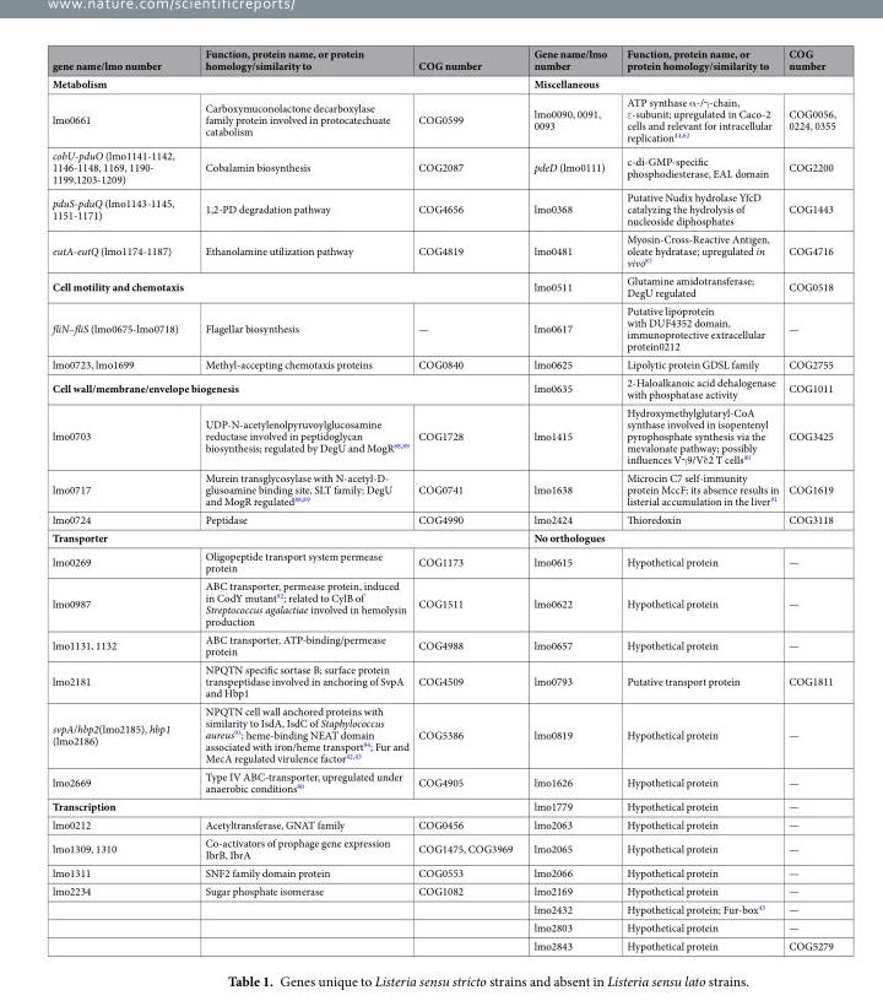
<table><thead><tr><td>gene name/lmo number</td><td>Function, protein name, or protein homology/similarity to</td><td>COG number</td><td>Gene name/lmo number</td><td>Function, protein name, or protein homology/similarity to</td><td>COG number</td></tr></thead><tbody><tr><td colspan="3">Metabolism</td><td colspan="3">Miscellaneous</td></tr><tr><td>lmo0661</td><td>Carboxymuconolactone decarboxylase family protein involved in protocatechuate catabolism</td><td>COG0599</td><td>lmo0090, 0091, 0093</td><td>ATP synthase α-/γ-chain, ε-subunit; upregulated in Caco-2 cells and relevant for intracellular replication<sup>44,62</sup></td><td>COG0056, 0224, 0355</td></tr><tr><td>cobU-pduO (lmo1141-1142, 1146-1148, 1169, 1190- 1199,1203-1209)</td><td>Cobalamin biosynthesis</td><td>COG2087</td><td>pdeD (lmo0111)</td><td>c-di-GMP-specific phosphodiesterase, EAL domain</td><td>COG2200</td></tr><tr><td>pduS-pduQ (lmo1143-1145, 1151-1171)</td><td>1,2-PD degradation pathway</td><td>COG4656</td><td>lmo0368</td><td>Putative Nudix hydrolase YfcD catalyzing the hydrolysis of nucleoside diphosphates</td><td>COG1443</td></tr><tr><td>eutA-eutQ (lmo1174-1187)</td><td>Ethanolamine utilization pathway</td><td>COG4819</td><td>lmo0481</td><td>Myosin-Cross-Reactive Antigen, oleate hydratase; upregulated in vivo<sup>87</sup></td><td>COG4716</td></tr><tr><td colspan="3">Cell motility and chemotaxis</td><td>lmo0511</td><td>Glutamine amidotransferase; DegU regulated</td><td>COG0518</td></tr><tr><td>fliN–fliS (lmo0675-lmo0718)</td><td>Flagellar biosynthesis</td><td>—</td><td>lmo0617</td><td>Putative lipoprotein with DUF4352 domain, immunoprotective extracellular protein0212</td><td>—</td></tr><tr><td>lmo0723, lmo1699</td><td>Methyl-accepting chemotaxis proteins</td><td>COG0840</td><td>lmo0625</td><td>Lipolytic protein GDSL family</td><td>COG2755</td></tr><tr><td colspan="3">Cell wall/membrane/envelope biogenesis</td><td>lmo0635</td><td>2-Haloalkanoic acid dehalogenase with phosphatase activity</td><td>COG1011</td></tr><tr><td>lmo0703</td><td>UDP-N-acetylenolpyruvoylglucosamine reductase involved in peptidoglycan biosynthesis; regulated by DegU and MogR<sup>88,89</sup></td><td>COG1728</td><td>lmo1415</td><td>Hydroxymethylglutaryl-CoA synthase involved in isopentenyl pyrophosphate synthesis via the mevalonate pathway; possibly influences Vγ9/Vδ2 T cells<sup>90</sup></td><td>COG3425</td></tr><tr><td>lmo0717</td><td>Murein transglycosylase with N-acetyl-D- glusoamine binding site, SLT family; DegU and MogR regulated<sup>88,89</sup></td><td>COG0741</td><td>lmo1638</td><td>Microcin C7 self-immunity protein MccF; its absence results in listerial accumulation in the liver<sup>91</sup></td><td>COG1619</td></tr><tr><td>lmo0724</td><td>Peptidase</td><td>COG4990</td><td>lmo2424</td><td>Thioredoxin</td><td>COG3118</td></tr><tr><td colspan="3">Transporter</td><td colspan="3">No orthologues</td></tr><tr><td>lmo0269</td><td>Oligopeptide transport system permease protein</td><td>COG1173</td><td>lmo0615</td><td>Hypothetical protein</td><td>—</td></tr><tr><td>lmo0987</td><td>ABC transporter, permease protein, induced in CodY mutant<sup>92</sup>; related to CylB of Streptococcus agalactiae involved in hemolysin production</td><td>COG1511</td><td>lmo0622</td><td>Hypothetical protein</td><td>—</td></tr><tr><td>lmo1131, 1132</td><td>ABC transporter, ATP-binding/permease protein</td><td>COG4988</td><td>lmo0657</td><td>Hypothetical protein</td><td>—</td></tr><tr><td>lmo2181</td><td>NPQTN specific sortase B; surface protein transpeptidase involved in anchoring of SvpA and Hbp1</td><td>COG4509</td><td>lmo0793</td><td>Putative transport protein</td><td>COG1811</td></tr><tr><td>svpA/hbp2(lmo2185), hbp1 (lmo2186)</td><td>NPQTN cell wall anchored proteins with similarity to IsdA, IsdC of Staphylococcus aureus<sup>93</sup>; heme-binding NEAT domain associated with iron/heme transport<sup>94</sup>; Fur and MecA regulated virulence factor<sup>42,43</sup></td><td>COG5386</td><td>lmo0819</td><td>Hypothetical protein</td><td>—</td></tr><tr><td>lmo2669</td><td>Type IV ABC-transporter, upregulated under anaerobic conditions<sup>80</sup></td><td>COG4905</td><td>lmo1626</td><td>Hypothetical protein</td><td>—</td></tr><tr><td colspan="3">Transcription</td><td>lmo1779</td><td>Hypothetical protein</td><td>—</td></tr><tr><td>lmo0212</td><td>Acetyltransferase, GNAT family</td><td>COG0456</td><td>lmo2063</td><td>Hypothetical protein</td><td>—</td></tr><tr><td>lmo1309, 1310</td><td>Co-activators of prophage gene expression IbrB, IbrA</td><td>COG1475, COG3969</td><td>lmo2065</td><td>Hypothetical protein</td><td>—</td></tr><tr><td>lmo1311</td><td>SNF2 family domain protein</td><td>COG0553</td><td>lmo2066</td><td>Hypothetical protein</td><td>—</td></tr><tr><td rowspan="4">lmo2234</td><td>Sugar phosphate isomerase</td><td>COG1082</td><td>lmo2169</td><td>Hypothetical protein</td><td>—</td></tr><tr><td></td><td></td><td>lmo2432</td><td>Hypothetical protein; Fur-box<sup>43</sup></td><td>—</td></tr><tr><td></td><td></td><td>lmo2803</td><td>Hypothetical protein</td><td>—</td></tr><tr><td></td><td></td><td>lmo2843</td><td>Hypothetical protein</td><td>COG5279</td></tr></tbody></table>